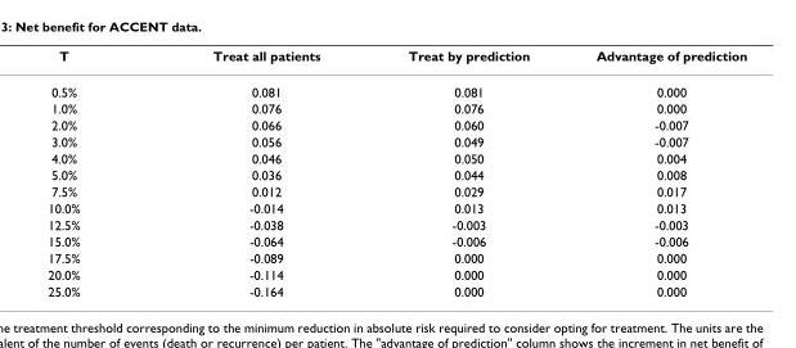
<table><thead><tr><td>T</td><td>Treat all patients</td><td>Treat by prediction</td><td>Advantage of prediction</td></tr></thead><tbody><tr><td>0.5%</td><td>0.081</td><td>0.081</td><td>0.000</td></tr><tr><td>1.0%</td><td>0.076</td><td>0.076</td><td>0.000</td></tr><tr><td>2.0%</td><td>0.066</td><td>0.060</td><td>-0.007</td></tr><tr><td>3.0%</td><td>0.056</td><td>0.049</td><td>-0.007</td></tr><tr><td>4.0%</td><td>0.046</td><td>0.050</td><td>0.004</td></tr><tr><td>5.0%</td><td>0.036</td><td>0.044</td><td>0.008</td></tr><tr><td>7.5%</td><td>0.012</td><td>0.029</td><td>0.017</td></tr><tr><td>10.0%</td><td>-0.014</td><td>0.013</td><td>0.013</td></tr><tr><td>12.5%</td><td>-0.038</td><td>-0.003</td><td>-0.003</td></tr><tr><td>15.0%</td><td>-0.064</td><td>-0.006</td><td>-0.006</td></tr><tr><td>17.5%</td><td>-0.089</td><td>0.000</td><td>0.000</td></tr><tr><td>20.0%</td><td>-0.114</td><td>0.000</td><td>0.000</td></tr><tr><td>25.0%</td><td>-0.164</td><td>0.000</td><td>0.000</td></tr></tbody></table>